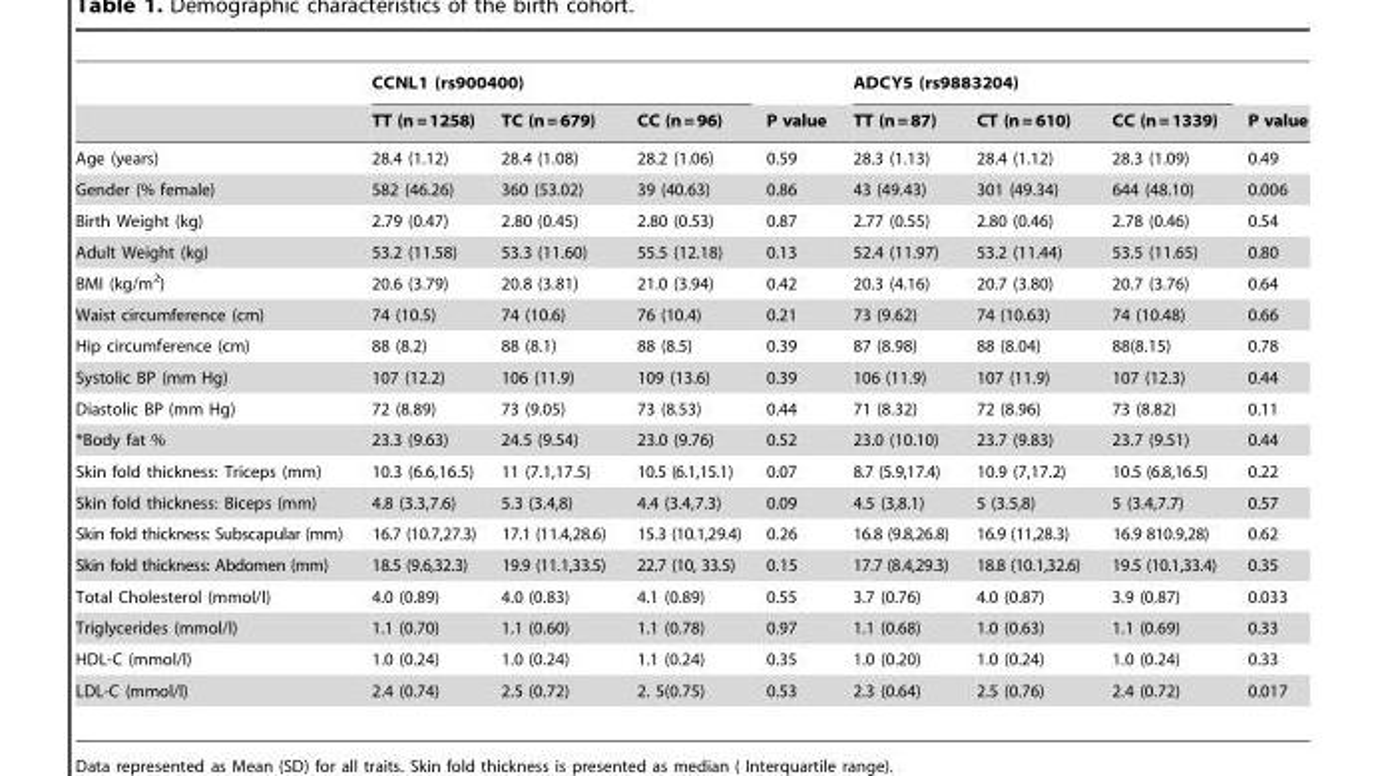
<table><thead><tr><td rowspan="2"></td><td colspan="3">CCNL1 (rs900400)</td><td rowspan="2">P value</td><td colspan="3">ADCY5 (rs9883204)</td><td rowspan="2">P value</td></tr><tr><td>TT (n=1258)</td><td>TC (n=679)</td><td>CC (n=96)</td><td>TT (n=87)</td><td>CT (n=610)</td><td>CC (n=1339)</td></tr></thead><tbody><tr><td>Age (years)</td><td>28.4 (1.12)</td><td>28.4 (1.08)</td><td>28.2 (1.06)</td><td>0.59</td><td>28.3 (1.13)</td><td>28.4 (1.12)</td><td>28.3 (1.09)</td><td>0.49</td></tr><tr><td>Gender (% female)</td><td>582 (46.26)</td><td>360 (53.02)</td><td>39 (40.63)</td><td>0.86</td><td>43 (49.43)</td><td>301 (49.34)</td><td>644 (48.10)</td><td>0.006</td></tr><tr><td>Birth Weight (kg)</td><td>2.79 (0.47)</td><td>2.80 (0.45)</td><td>2.80 (0.53)</td><td>0.87</td><td>2.77 (0.55)</td><td>2.80 (0.46)</td><td>2.78 (0.46)</td><td>0.54</td></tr><tr><td>Adult Weight (kg)</td><td>53.2 (11.58)</td><td>53.3 (11.60)</td><td>55.5 (12.18)</td><td>0.13</td><td>52.4 (11.97)</td><td>53.2 (11.44)</td><td>53.5 (11.65)</td><td>0.80</td></tr><tr><td>BMI (kg/m<sup>2</sup>)</td><td>20.6 (3.79)</td><td>20.8 (3.81)</td><td>21.0 (3.94)</td><td>0.42</td><td>20.3 (4.16)</td><td>20.7 (3.80)</td><td>20.7 (3.76)</td><td>0.64</td></tr><tr><td>Waist circumference (cm)</td><td>74 (10.5)</td><td>74 (10.6)</td><td>76 (10.4)</td><td>0.21</td><td>73 (9.62)</td><td>74 (10.63)</td><td>74 (10.48)</td><td>0.66</td></tr><tr><td>Hip circumference (cm)</td><td>88 (8.2)</td><td>88 (8.1)</td><td>88 (8.5)</td><td>0.39</td><td>87 (8.98)</td><td>88 (8.04)</td><td>88(8.15)</td><td>0.78</td></tr><tr><td>Systolic BP (mm Hg)</td><td>107 (12.2)</td><td>106 (11.9)</td><td>109 (13.6)</td><td>0.39</td><td>106 (11.9)</td><td>107 (11.9)</td><td>107 (12.3)</td><td>0.44</td></tr><tr><td>Diastolic BP (mm Hg)</td><td>72 (8.89)</td><td>73 (9.05)</td><td>73 (8.53)</td><td>0.44</td><td>71 (8.32)</td><td>72 (8.96)</td><td>73 (8.82)</td><td>0.11</td></tr><tr><td>*Body fat %</td><td>23.3 (9.63)</td><td>24.5 (9.54)</td><td>23.0 (9.76)</td><td>0.52</td><td>23.0 (10.10)</td><td>23.7 (9.83)</td><td>23.7 (9.51)</td><td>0.44</td></tr><tr><td>Skin fold thickness: Triceps (mm)</td><td>10.3 (6.6,16.5)</td><td>11 (7.1,17.5)</td><td>10.5 (6.1,15.1)</td><td>0.07</td><td>8.7 (5.9,17.4)</td><td>10.9 (7,17.2)</td><td>10.5 (6.8,16.5)</td><td>0.22</td></tr><tr><td>Skin fold thickness: Biceps (mm)</td><td>4.8 (3.3,7.6)</td><td>5.3 (3.4,8)</td><td>4.4 (3.4,7.3)</td><td>0.09</td><td>4.5 (3,8.1)</td><td>5 (3.5,8)</td><td>5 (3.4,7.7)</td><td>0.57</td></tr><tr><td>Skin fold thickness: Subscapular (mm)</td><td>16.7 (10.7,27.3)</td><td>17.1 (11.4,28.6)</td><td>15.3 (10.1,29.4)</td><td>0.26</td><td>16.8 (9.8,26.8)</td><td>16.9 (11,28.3)</td><td>16.9 810.9,28)</td><td>0.62</td></tr><tr><td>Skin fold thickness: Abdomen (mm)</td><td>18.5 (9.6,32.3)</td><td>19.9 (11.1,33.5)</td><td>22.7 (10, 33.5)</td><td>0.15</td><td>17.7 (8.4,29.3)</td><td>18.8 (10.1,32.6)</td><td>19.5 (10.1,33.4)</td><td>0.35</td></tr><tr><td>Total Cholesterol (mmol/l)</td><td>4.0 (0.89)</td><td>4.0 (0.83)</td><td>4.1 (0.89)</td><td>0.55</td><td>3.7 (0.76)</td><td>4.0 (0.87)</td><td>3.9 (0.87)</td><td>0.033</td></tr><tr><td>Triglycerides (mmol/l)</td><td>1.1 (0.70)</td><td>1.1 (0.60)</td><td>1.1 (0.78)</td><td>0.97</td><td>1.1 (0.68)</td><td>1.0 (0.63)</td><td>1.1 (0.69)</td><td>0.33</td></tr><tr><td>HDL-C (mmol/l)</td><td>1.0 (0.24)</td><td>1.0 (0.24)</td><td>1.1 (0.24)</td><td>0.35</td><td>1.0 (0.20)</td><td>1.0 (0.24)</td><td>1.0 (0.24)</td><td>0.33</td></tr><tr><td>LDL-C (mmol/l)</td><td>2.4 (0.74)</td><td>2.5 (0.72)</td><td>2. 5(0.75)</td><td>0.53</td><td>2.3 (0.64)</td><td>2.5 (0.76)</td><td>2.4 (0.72)</td><td>0.017</td></tr></tbody></table>